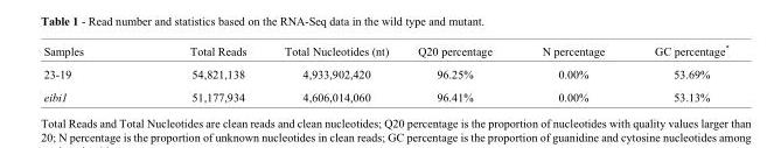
<table><thead><tr><td>Samples</td><td>Total Reads</td><td>Total Nucleotides (nt)</td><td>Q20 percentage</td><td>N percentage</td><td>GC percentage*</td></tr></thead><tbody><tr><td>23-19</td><td>54,821,138</td><td>4,933,902,420</td><td>96.25%</td><td>0.00%</td><td>53.69%</td></tr><tr><td>eibi1</td><td>51,177,934</td><td>4,606,014,060</td><td>96.41%</td><td>0.00%</td><td>53.13%</td></tr></tbody></table>